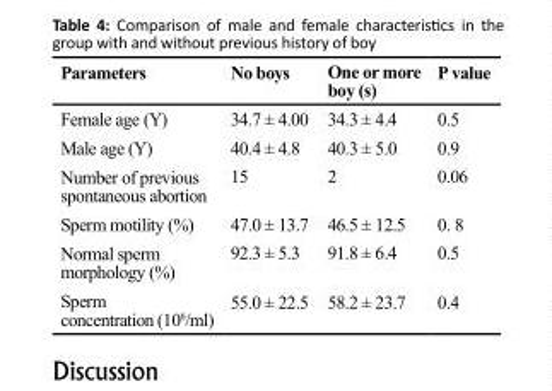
<table><thead><tr><td>Parameters</td><td>No boys</td><td>One or more boy (s)</td><td>P value</td></tr></thead><tbody><tr><td>Female age (Y)</td><td>34.7 ± 4.00</td><td>34.3 ± 4.4</td><td>0.5</td></tr><tr><td>Male age (Y)</td><td>40.4 ± 4.8</td><td>40.3 ± 5.0</td><td>0.9</td></tr><tr><td>Number of previous spontaneous abortion</td><td>15</td><td>2</td><td>0.06</td></tr><tr><td>Sperm motility (%)</td><td>47.0 ± 13.7</td><td>46.5 ± 12.5</td><td>0. 8</td></tr><tr><td>Normal sperm morphology (%)</td><td>92.3 ± 5.3</td><td>91.8 ± 6.4</td><td>0.5</td></tr><tr><td>Sperm concentration (10<sup>6</sup>/ml)</td><td>55.0 ± 22.5</td><td>58.2 ± 23.7</td><td>0.4</td></tr></tbody></table>